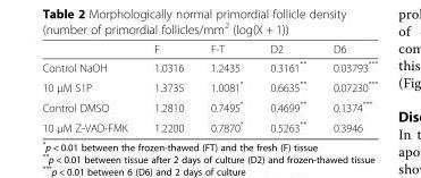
<table><thead><tr><td></td><td>F</td><td>F-T</td><td>D2</td><td>D6</td></tr></thead><tbody><tr><td>Control NaOH</td><td>1.0316</td><td>1.2435</td><td>0.3161**</td><td>0.03793***</td></tr><tr><td>10 μM S1P</td><td>1.3735</td><td>1.0081*</td><td>0.6635**</td><td>0.07230***</td></tr><tr><td>Control DMSO</td><td>1.2810</td><td>0.7495*</td><td>0.4699**</td><td>0.1374***</td></tr><tr><td>10 μM Z-VAD-FMK</td><td>1.2200</td><td>0.7870*</td><td>0.5263**</td><td>0.3946</td></tr></tbody></table>